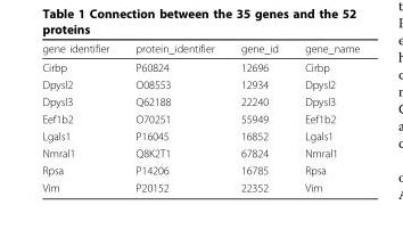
<table><thead><tr><td>gene identifier</td><td>protein_identifier</td><td>gene_id</td><td>gene_name</td></tr></thead><tbody><tr><td>Cirbp</td><td>P60824</td><td>12696</td><td>Cirbp</td></tr><tr><td>Dpysl2</td><td>O08553</td><td>12934</td><td>Dpysl2</td></tr><tr><td>Dpysl3</td><td>Q62188</td><td>22240</td><td>Dpysl3</td></tr><tr><td>Eef1b2</td><td>O70251</td><td>55949</td><td>Eef1b2</td></tr><tr><td>Lgals1</td><td>P16045</td><td>16852</td><td>Lgals1</td></tr><tr><td>Nmral1</td><td>Q8K2T1</td><td>67824</td><td>Nmral1</td></tr><tr><td>Rpsa</td><td>P14206</td><td>16785</td><td>Rpsa</td></tr><tr><td>Vim</td><td>P20152</td><td>22352</td><td>Vim</td></tr></tbody></table>